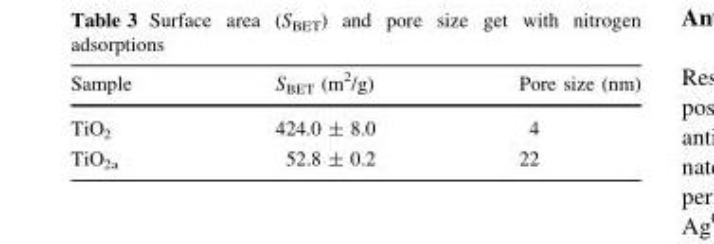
<table><thead><tr><td>Sample</td><td>S<sub>BET</sub> (m<sup>2</sup>/g)</td><td>Pore size (nm)</td></tr></thead><tbody><tr><td>TiO<sub>2</sub></td><td>424.0 ± 8.0</td><td>4</td></tr><tr><td>TiO<sub>2a</sub></td><td>52.8 ± 0.2</td><td>22</td></tr></tbody></table>